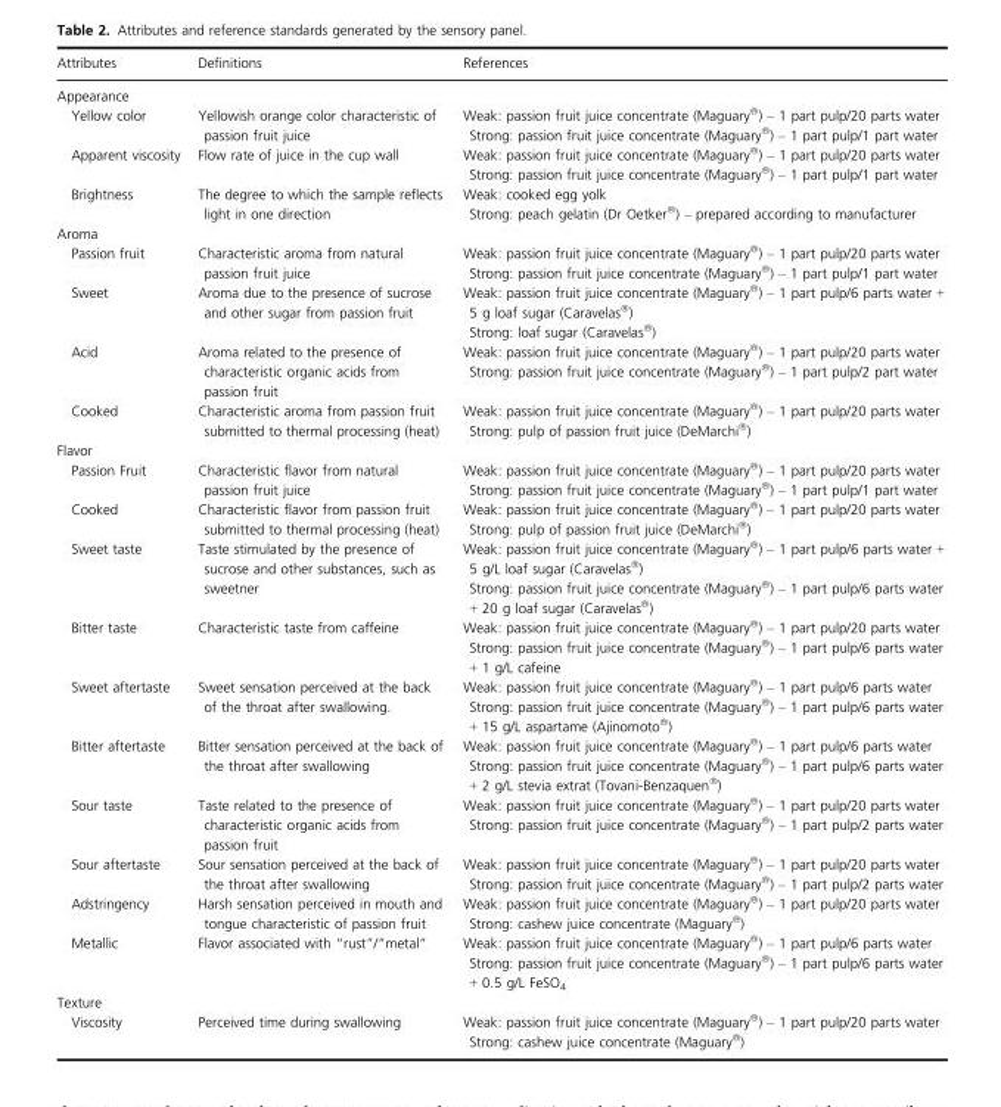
<table><thead><tr><td>Attributes</td><td>Definitions</td><td>References</td></tr></thead><tbody><tr><td colspan="3">Appearance</td></tr><tr><td rowspan="2">Yellow color</td><td rowspan="2">Yellowish orange color characteristic of passion fruit juice</td><td>Weak: passion fruit juice concentrate (Maguary®) – 1 part pulp/20 parts water</td></tr><tr><td>Strong: passion fruit juice concentrate (Maguary®) – 1 part pulp/1 part water</td></tr><tr><td rowspan="2">Apparent viscosity</td><td rowspan="2">Flow rate of juice in the cup wall</td><td>Weak: passion fruit juice concentrate (Maguary®) – 1 part pulp/20 parts water</td></tr><tr><td>Strong: passion fruit juice concentrate (Maguary®) – 1 part pulp/1 part water</td></tr><tr><td rowspan="2">Brightness</td><td rowspan="2">The degree to which the sample reflects light in one direction</td><td>Weak: cooked egg yolk</td></tr><tr><td>Strong: peach gelatin (Dr Oetker®) – prepared according to manufacturer</td></tr><tr><td colspan="3">Aroma</td></tr><tr><td rowspan="2">Passion fruit</td><td rowspan="2">Characteristic aroma from natural passion fruit juice</td><td>Weak: passion fruit juice concentrate (Maguary®) – 1 part pulp/20 parts water</td></tr><tr><td>Strong: passion fruit juice concentrate (Maguary®) – 1 part pulp/1 part water</td></tr><tr><td rowspan="2">Sweet</td><td rowspan="2">Aroma due to the presence of sucrose and other sugar from passion fruit</td><td>Weak: passion fruit juice concentrate (Maguary®) – 1 part pulp/6 parts water + 5 g loaf sugar (Caravelas®)</td></tr><tr><td>Strong: loaf sugar (Caravelas®)</td></tr><tr><td rowspan="2">Acid</td><td rowspan="2">Aroma related to the presence of characteristic organic acids from passion fruit</td><td>Weak: passion fruit juice concentrate (Maguary®) – 1 part pulp/20 parts water</td></tr><tr><td>Strong: passion fruit juice concentrate (Maguary®) – 1 part pulp/2 part water</td></tr><tr><td rowspan="2">Cooked</td><td rowspan="2">Characteristic aroma from passion fruit submitted to thermal processing (heat)</td><td>Weak: passion fruit juice concentrate (Maguary®) – 1 part pulp/20 parts water</td></tr><tr><td>Strong: pulp of passion fruit juice (DeMarchi®)</td></tr><tr><td colspan="3">Flavor</td></tr><tr><td rowspan="2">Passion Fruit</td><td rowspan="2">Characteristic flavor from natural passion fruit juice</td><td>Weak: passion fruit juice concentrate (Maguary®) – 1 part pulp/20 parts water</td></tr><tr><td>Strong: passion fruit juice concentrate (Maguary®) – 1 part pulp/1 part water</td></tr><tr><td rowspan="2">Cooked</td><td rowspan="2">Characteristic flavor from passion fruit submitted to thermal processing (heat)</td><td>Weak: passion fruit juice concentrate (Maguary®) – 1 part pulp/20 parts water</td></tr><tr><td>Strong: pulp of passion fruit juice (DeMarchi®)</td></tr><tr><td rowspan="2">Sweet taste</td><td rowspan="2">Taste stimulated by the presence of sucrose and other substances, such as sweetner</td><td>Weak: passion fruit juice concentrate (Maguary®) – 1 part pulp/6 parts water + 5 g/L loaf sugar (Caravelas®)</td></tr><tr><td>Strong: passion fruit juice concentrate (Maguary®) – 1 part pulp/6 parts water + 20 g loaf sugar (Caravelas®)</td></tr><tr><td rowspan="2">Bitter taste</td><td rowspan="2">Characteristic taste from caffeine</td><td>Weak: passion fruit juice concentrate (Maguary®) – 1 part pulp/20 parts water</td></tr><tr><td>Strong: passion fruit juice concentrate (Maguary®) – 1 part pulp/6 parts water + 1 g/L cafeine</td></tr><tr><td rowspan="2">Sweet aftertaste</td><td rowspan="2">Sweet sensation perceived at the back of the throat after swallowing.</td><td>Weak: passion fruit juice concentrate (Maguary®) – 1 part pulp/6 parts water</td></tr><tr><td>Strong: passion fruit juice concentrate (Maguary®) – 1 part pulp/6 parts water + 15 g/L aspartame (Ajinomoto®)</td></tr><tr><td rowspan="2">Bitter aftertaste</td><td rowspan="2">Bitter sensation perceived at the back of the throat after swallowing</td><td>Weak: passion fruit juice concentrate (Maguary®) – 1 part pulp/6 parts water</td></tr><tr><td>Strong: passion fruit juice concentrate (Maguary®) – 1 part pulp/6 parts water + 2 g/L stevia extrat (Tovani-Benzaquen®)</td></tr><tr><td rowspan="2">Sour taste</td><td rowspan="2">Taste related to the presence of characteristic organic acids from passion fruit</td><td>Weak: passion fruit juice concentrate (Maguary®) – 1 part pulp/20 parts water</td></tr><tr><td>Strong: passion fruit juice concentrate (Maguary®) – 1 part pulp/2 parts water</td></tr><tr><td rowspan="2">Sour aftertaste</td><td rowspan="2">Sour sensation perceived at the back of the throat after swallowing</td><td>Weak: passion fruit juice concentrate (Maguary®) – 1 part pulp/20 parts water</td></tr><tr><td>Strong: passion fruit juice concentrate (Maguary®) – 1 part pulp/2 parts water</td></tr><tr><td rowspan="2">Adstringency</td><td rowspan="2">Harsh sensation perceived in mouth and tongue characteristic of passion fruit</td><td>Weak: passion fruit juice concentrate (Maguary®) – 1 part pulp/20 parts water</td></tr><tr><td>Strong: cashew juice concentrate (Maguary®)</td></tr><tr><td rowspan="2">Metallic</td><td rowspan="2">Flavor associated with “rust”/”metal”</td><td>Weak: passion fruit juice concentrate (Maguary®) – 1 part pulp/6 parts water</td></tr><tr><td>Strong: passion fruit juice concentrate (Maguary®) – 1 part pulp/6 parts water + 0.5 g/L FeSO<sub>4</sub></td></tr><tr><td colspan="3">Texture</td></tr><tr><td rowspan="2">Viscosity</td><td rowspan="2">Perceived time during swallowing</td><td>Weak: passion fruit juice concentrate (Maguary®) – 1 part pulp/20 parts water</td></tr><tr><td>Strong: cashew juice concentrate (Maguary®)</td></tr></tbody></table>